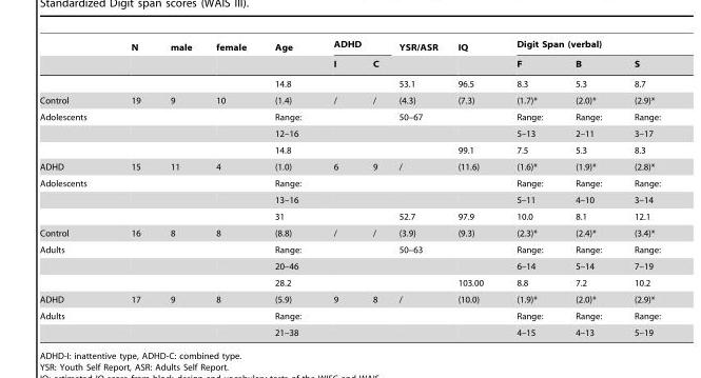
<table><thead><tr><td rowspan="2"></td><td rowspan="2">N</td><td rowspan="2">male</td><td rowspan="2">female</td><td rowspan="2">Age</td><td colspan="2">ADHD</td><td rowspan="2">YSR/ASR</td><td rowspan="2">IQ</td><td colspan="3">Digit Span (verbal)</td></tr><tr><td>I</td><td>C</td><td>F</td><td>B</td><td>S</td></tr></thead><tbody><tr><td></td><td></td><td></td><td></td><td>14.8</td><td></td><td></td><td>53.1</td><td>96.5</td><td>8.3</td><td>5.3</td><td>8.7</td></tr><tr><td>Control</td><td>19</td><td>9</td><td>10</td><td>(1.4)</td><td>/</td><td>/</td><td>(4.3)</td><td>(7.3)</td><td>(1.7)*</td><td>(2.0)*</td><td>(2.9)*</td></tr><tr><td rowspan="3">Adolescents</td><td></td><td></td><td></td><td>Range:</td><td></td><td></td><td>50–67</td><td></td><td>Range:</td><td>Range:</td><td>Range:</td></tr><tr><td></td><td></td><td></td><td>12–16</td><td></td><td></td><td></td><td></td><td>5–13</td><td>2–11</td><td>3–17</td></tr><tr><td></td><td></td><td></td><td>14.8</td><td></td><td></td><td></td><td>99.1</td><td>7.5</td><td>5.3</td><td>8.3</td></tr><tr><td>ADHD</td><td>15</td><td>11</td><td>4</td><td>(1.0)</td><td>6</td><td>9</td><td>/</td><td>(11.6)</td><td>(1.6)*</td><td>(1.9)*</td><td>(2.8)*</td></tr><tr><td rowspan="3">Adolescents</td><td></td><td></td><td></td><td>Range:</td><td></td><td></td><td></td><td></td><td>Range:</td><td>Range:</td><td>Range:</td></tr><tr><td></td><td></td><td></td><td>13–16</td><td></td><td></td><td></td><td></td><td>5–11</td><td>4–10</td><td>3–14</td></tr><tr><td></td><td></td><td></td><td>31</td><td></td><td></td><td>52.7</td><td>97.9</td><td>10.0</td><td>8.1</td><td>12.1</td></tr><tr><td>Control</td><td>16</td><td>8</td><td>8</td><td>(8.8)</td><td>/</td><td>/</td><td>(3.9)</td><td>(9.3)</td><td>(2.3)*</td><td>(2.4)*</td><td>(3.4)*</td></tr><tr><td rowspan="3">Adults</td><td></td><td></td><td></td><td>Range:</td><td></td><td></td><td>50–63</td><td></td><td>Range:</td><td>Range:</td><td>Range:</td></tr><tr><td></td><td></td><td></td><td>20–46</td><td></td><td></td><td></td><td></td><td>6–14</td><td>5–14</td><td>7–19</td></tr><tr><td></td><td></td><td></td><td>28.2</td><td></td><td></td><td></td><td>103.00</td><td>8.8</td><td>7.2</td><td>10.2</td></tr><tr><td>ADHD</td><td>17</td><td>9</td><td>8</td><td>(5.9)</td><td>9</td><td>8</td><td>/</td><td>(10.0)</td><td>(1.9)*</td><td>(2.0)*</td><td>(2.9)*</td></tr><tr><td rowspan="2">Adults</td><td></td><td></td><td></td><td>Range:</td><td></td><td></td><td></td><td></td><td>Range:</td><td>Range:</td><td>Range:</td></tr><tr><td></td><td></td><td></td><td>21–38</td><td></td><td></td><td></td><td></td><td>4–15</td><td>4–13</td><td>5–19</td></tr></tbody></table>